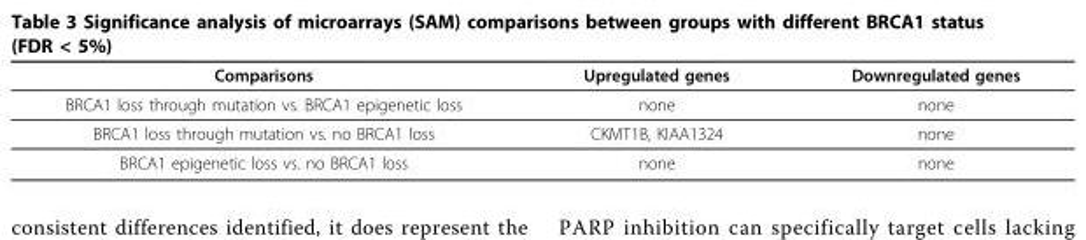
<table><thead><tr><td>Comparisons</td><td>Upregulated genes</td><td>Downregulated genes</td></tr></thead><tbody><tr><td>BRCA1 loss through mutation vs. BRCA1 epigenetic loss</td><td>none</td><td>none</td></tr><tr><td>BRCA1 loss through mutation vs. no BRCA1 loss</td><td>CKMT1B, KIAA1324</td><td>none</td></tr><tr><td>BRCA1 epigenetic loss vs. no BRCA1 loss</td><td>none</td><td>none</td></tr></tbody></table>